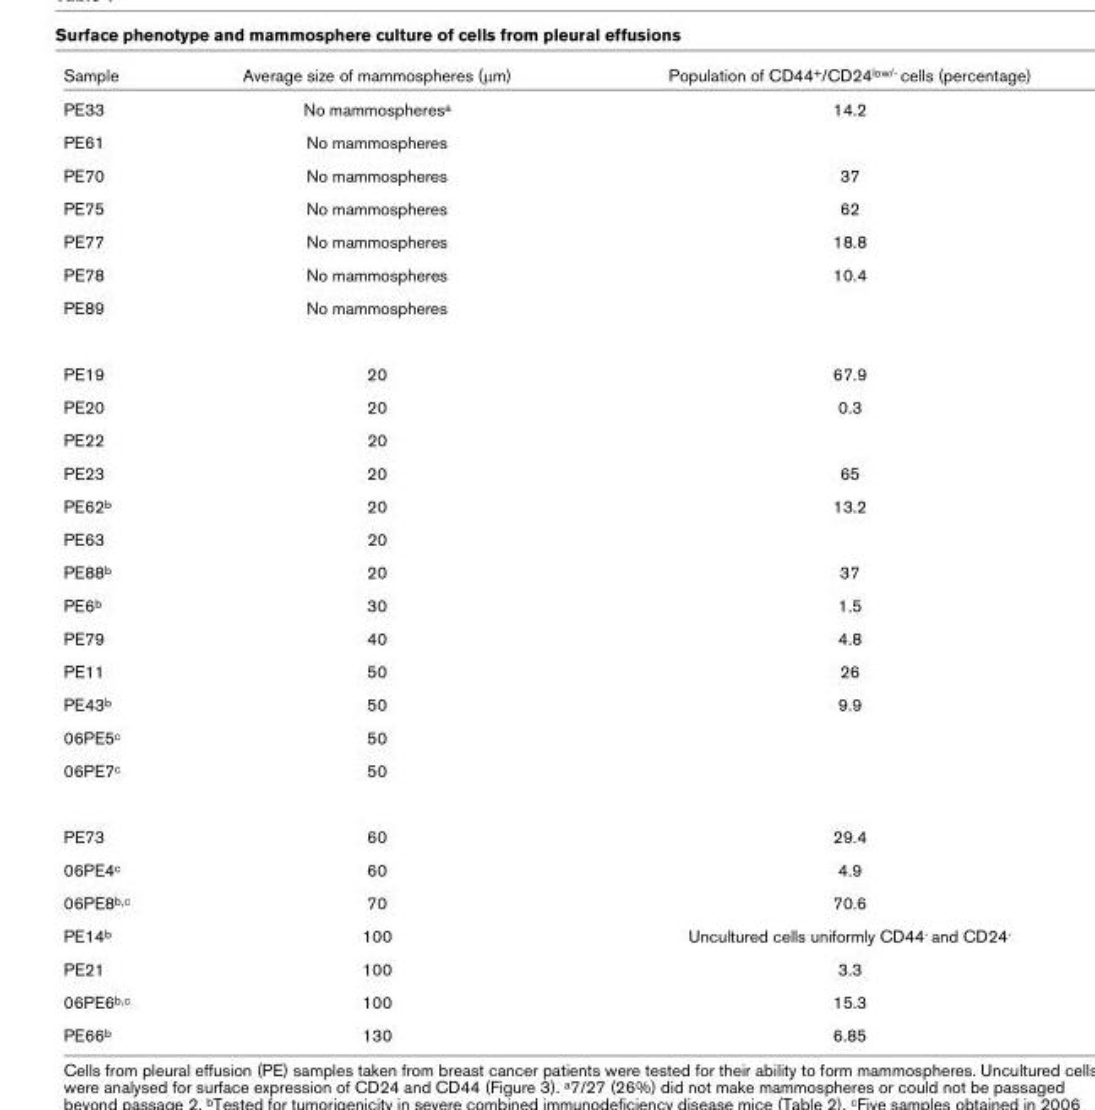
<table><thead><tr><td>Sample</td><td>Average size of mammospheres (μm)</td><td>Population of CD44<sup>+</sup>/CD24<sup>low/-</sup> cells (percentage)</td></tr></thead><tbody><tr><td>PE33</td><td>No mammospheres<sup>a</sup></td><td>14.2</td></tr><tr><td>PE61</td><td>No mammospheres</td><td></td></tr><tr><td>PE70</td><td>No mammospheres</td><td>37</td></tr><tr><td>PE75</td><td>No mammospheres</td><td>62</td></tr><tr><td>PE77</td><td>No mammospheres</td><td>18.8</td></tr><tr><td>PE78</td><td>No mammospheres</td><td>10.4</td></tr><tr><td>PE89</td><td>No mammospheres</td><td></td></tr><tr><td>PE19</td><td>20</td><td>67.9</td></tr><tr><td>PE20</td><td>20</td><td>0.3</td></tr><tr><td>PE22</td><td>20</td><td></td></tr><tr><td>PE23</td><td>20</td><td>65</td></tr><tr><td>PE62<sup>b</sup></td><td>20</td><td>13.2</td></tr><tr><td>PE63</td><td>20</td><td></td></tr><tr><td>PE88<sup>b</sup></td><td>20</td><td>37</td></tr><tr><td>PE6<sup>b</sup></td><td>30</td><td>1.5</td></tr><tr><td>PE79</td><td>40</td><td>4.8</td></tr><tr><td>PE11</td><td>50</td><td>26</td></tr><tr><td>PE43<sup>b</sup></td><td>50</td><td>9.9</td></tr><tr><td>06PE5<sup>c</sup></td><td>50</td><td></td></tr><tr><td>06PE7<sup>c</sup></td><td>50</td><td></td></tr><tr><td>PE73</td><td>60</td><td>29.4</td></tr><tr><td>06PE4<sup>c</sup></td><td>60</td><td>4.9</td></tr><tr><td>06PE8<sup>b,c</sup></td><td>70</td><td>70.6</td></tr><tr><td>PE14<sup>b</sup></td><td>100</td><td>Uncultured cells uniformly CD44<sup>-</sup> and CD24<sup>-</sup></td></tr><tr><td>PE21</td><td>100</td><td>3.3</td></tr><tr><td>06PE6<sup>b,c</sup></td><td>100</td><td>15.3</td></tr><tr><td>PE66<sup>b</sup></td><td>130</td><td>6.85</td></tr></tbody></table>